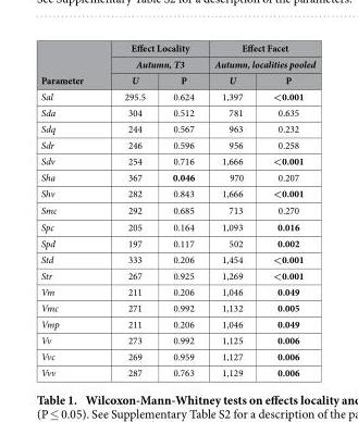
<table><thead><tr><td rowspan="3">Parameter</td><td rowspan="2" colspan="2">Effect Locality Autumn, T3</td><td rowspan="2" colspan="2">Effect Facet Autumn, localities pooled</td></tr><tr></tr><tr><td>U</td><td>P</td><td>U</td><td>P</td></tr></thead><tbody><tr><td>Sal</td><td>295.5</td><td>0.624</td><td>1,397</td><td>&lt;0.001</td></tr><tr><td>Sda</td><td>304</td><td>0.512</td><td>781</td><td>0.635</td></tr><tr><td>Sdq</td><td>244</td><td>0.567</td><td>963</td><td>0.232</td></tr><tr><td>Sdr</td><td>246</td><td>0.596</td><td>956</td><td>0.258</td></tr><tr><td>Sdv</td><td>254</td><td>0.716</td><td>1,666</td><td>&lt;0.001</td></tr><tr><td>Sha</td><td>367</td><td>0.046</td><td>970</td><td>0.207</td></tr><tr><td>Shv</td><td>282</td><td>0.843</td><td>1,666</td><td>&lt; 0.001</td></tr><tr><td>Smc</td><td>292</td><td>0.685</td><td>713</td><td>0.270</td></tr><tr><td>Spc</td><td>205</td><td>0.164</td><td>1,093</td><td>0.016</td></tr><tr><td>Spd</td><td>197</td><td>0.117</td><td>502</td><td>0.002</td></tr><tr><td>Std</td><td>333</td><td>0.206</td><td>1,454</td><td>&lt;0.001</td></tr><tr><td>Str</td><td>267</td><td>0.925</td><td>1,269</td><td>&lt;0.001</td></tr><tr><td>Vm</td><td>211</td><td>0.206</td><td>1,046</td><td>0.049</td></tr><tr><td>Vmc</td><td>271</td><td>0.992</td><td>1,132</td><td>0.005</td></tr><tr><td>Vmp</td><td>211</td><td>0.206</td><td>1,046</td><td>0.049</td></tr><tr><td>Vv</td><td>273</td><td>0.992</td><td>1,125</td><td>0.006</td></tr><tr><td>Vvc</td><td>269</td><td>0.959</td><td>1,127</td><td>0.006</td></tr><tr><td>Vvv</td><td>287</td><td>0.763</td><td>1,129</td><td>0.006</td></tr></tbody></table>